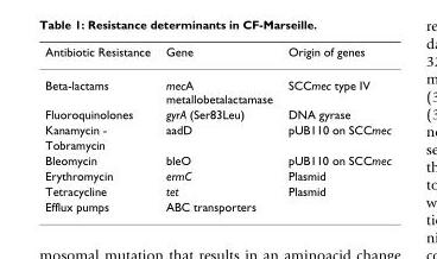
<table><thead><tr><td>Antibiotic Resistance</td><td>Gene</td><td>Origin of genes</td></tr></thead><tbody><tr><td>Beta-lactams</td><td>mecA metallobetalactamase</td><td>SCCmec type IV</td></tr><tr><td>Fluoroquinolones</td><td>gyrA (Ser83Leu)</td><td>DNA gyrase</td></tr><tr><td>Kanamycin -</td><td>aadD</td><td>pUB110 on SCCmec</td></tr><tr><td colspan="3">Tobramycin</td></tr><tr><td>Bleomycin</td><td>bleO</td><td>pUB110 on SCCmec</td></tr><tr><td>Erythromycin</td><td>ermC</td><td>Plasmid</td></tr><tr><td>Tetracycline</td><td>tet</td><td>Plasmid</td></tr><tr><td>Efflux pumps</td><td>ABC transporters</td><td></td></tr></tbody></table>